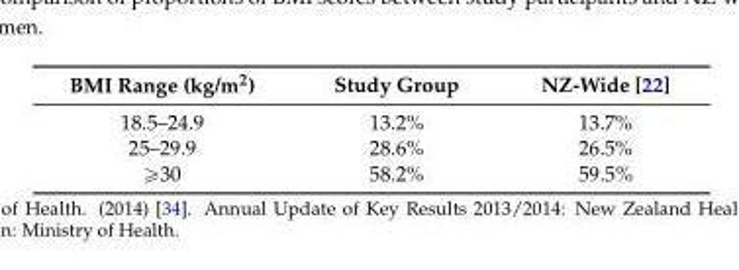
<table><thead><tr><td>BMI Range (kg/m<sup>2</sup>)</td><td>Study Group</td><td>NZ-Wide [22]</td></tr></thead><tbody><tr><td>18.5–24.9</td><td>13.2%</td><td>13.7%</td></tr><tr><td>25–29.9</td><td>28.6%</td><td>26.5%</td></tr><tr><td>ě30</td><td>58.2%</td><td>59.5%</td></tr></tbody></table>